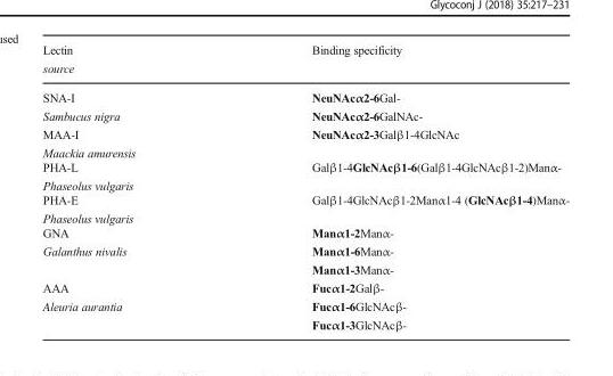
<table><thead><tr><td>Lectin source</td><td>Binding specificity</td></tr></thead><tbody><tr><td>SNA-I Sambucus nigra</td><td>NeuNAcα2-6Gal- NeuNAcα2-6GalNAc-</td></tr><tr><td>MAA-I Maackia amurensis</td><td>NeuNAcα2-3Galβ1-4GlcNAc</td></tr><tr><td>PHA-L Phaseolus vulgaris</td><td>Galβ1-4GlcNAcβ1-6(Galβ1-4GlcNAcβ1-2)Manα-</td></tr><tr><td>PHA-E Phaseolus vulgaris</td><td>Galβ1-4GlcNAcβ1-2Manα1-4 (GlcNAcβ1-4)Manα-</td></tr><tr><td>GNA Galanthus nivalis</td><td>Manα1-2Manα- Manα1-6Manα- Manα1-3Manα-</td></tr><tr><td>AAA Aleuria aurantia</td><td>Fucα1-2Galβ- Fucα1-6GlcNAcβ- Fucα1-3GlcNAcβ-</td></tr></tbody></table>